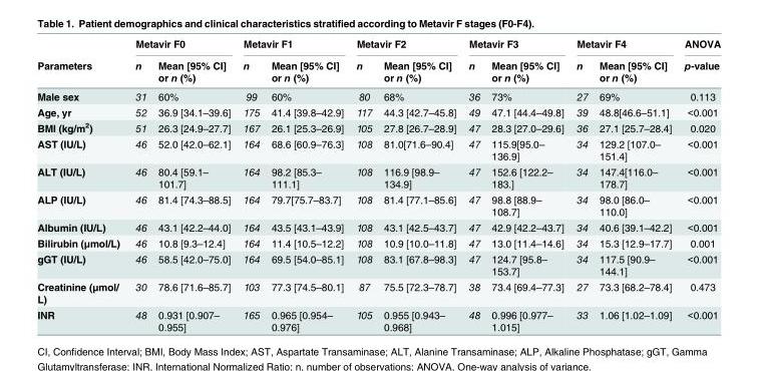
<table><thead><tr><td rowspan="2">Parameters</td><td colspan="2">Metavir F0</td><td colspan="2">Metavir F1</td><td colspan="2">Metavir F2</td><td colspan="2">Metavir F3</td><td colspan="2">Metavir F4</td><td rowspan="2">ANOVA p-value</td></tr><tr><td>n</td><td>Mean [95% CI] or n (%)</td><td>n</td><td>Mean [95% CI] or n (%)</td><td>n</td><td>Mean [95% CI] or n (%)</td><td>n</td><td>Mean [95% CI] or n (%)</td><td>n</td><td>Mean [95% CI] or n (%)</td></tr></thead><tbody><tr><td>Male sex</td><td>31</td><td>60%</td><td>99</td><td>60%</td><td>80</td><td>68%</td><td>36</td><td>73%</td><td>27</td><td>69%</td><td>0.113</td></tr><tr><td>Age, yr</td><td>52</td><td>36.9 [34.1–39.6]</td><td>175</td><td>41.4 [39.8–42.9]</td><td>117</td><td>44.3 [42.7–45.8]</td><td>49</td><td>47.1 [44.4–49.8]</td><td>39</td><td>48.8[46.6–51.1]</td><td>&lt;0.001</td></tr><tr><td>BMI (kg/m<sup>2</sup>)</td><td>51</td><td>26.3 [24.9–27.7]</td><td>167</td><td>26.1 [25.3–26.9]</td><td>105</td><td>27.8 [26.7–28.9]</td><td>47</td><td>28.3 [27.0–29.6]</td><td>36</td><td>27.1 [25.7–28.4]</td><td>0.020</td></tr><tr><td>AST (IU/L)</td><td>46</td><td>52.0 [42.0–62.1]</td><td>164</td><td>68.6 [60.9–76.3]</td><td>108</td><td>81.0[71.6–90.4]</td><td>47</td><td>115.9[95.0– 136.9]</td><td>34</td><td>129.2 [107.0– 151.4]</td><td>&lt;0.001</td></tr><tr><td>ALT (IU/L)</td><td>46</td><td>80.4 [59.1– 101.7]</td><td>164</td><td>98.2 [85.3– 111.1]</td><td>108</td><td>116.9 [98.9– 134.9]</td><td>47</td><td>152.6 [122.2– 183.]</td><td>34</td><td>147.4[116.0– 178.7]</td><td>&lt;0.001</td></tr><tr><td>ALP (IU/L)</td><td>46</td><td>81.4 [74.3–88.5]</td><td>164</td><td>79.7[75.7–83.7]</td><td>108</td><td>81.4 [77.1–85.6]</td><td>47</td><td>98.8 [88.9– 108.7]</td><td>34</td><td>98.0 [86.0– 110.0]</td><td>&lt;0.001</td></tr><tr><td>Albumin (IU/L)</td><td>46</td><td>43.1 [42.2–44.0]</td><td>164</td><td>43.5 [43.1–43.9]</td><td>108</td><td>43.1 [42.5–43.7]</td><td>47</td><td>42.9 [42.2–43.7]</td><td>34</td><td>40.6 [39.1–42.2]</td><td>&lt;0.001</td></tr><tr><td>Bilirubin (μmol/L)</td><td>46</td><td>10.8 [9.3–12.4]</td><td>164</td><td>11.4 [10.5–12.2]</td><td>108</td><td>10.9 [10.0–11.8]</td><td>47</td><td>13.0 [11.4–14.6]</td><td>34</td><td>15.3 [12.9–17.7]</td><td>0.001</td></tr><tr><td>gGT (IU/L)</td><td>46</td><td>58.5 [42.0–75.0]</td><td>164</td><td>69.5 [54.0–85.1]</td><td>108</td><td>83.1 [67.8–98.3]</td><td>47</td><td>124.7 [95.8– 153.7]</td><td>34</td><td>117.5 [90.9– 144.1]</td><td>&lt;0.001</td></tr><tr><td>Creatinine (μmol/ L)</td><td>30</td><td>78.6 [71.6–85.7]</td><td>103</td><td>77.3 [74.5–80.1]</td><td>87</td><td>75.5 [72.3–78.7]</td><td>38</td><td>73.4 [69.4–77.3]</td><td>27</td><td>73.3 [68.2–78.4]</td><td>0.473</td></tr><tr><td>INR</td><td>48</td><td>0.931 [0.907– 0.955]</td><td>165</td><td>0.965 [0.954– 0.976]</td><td>105</td><td>0.955 [0.943– 0.968]</td><td>48</td><td>0.996 [0.977– 1.015]</td><td>33</td><td>1.06 [1.02–1.09]</td><td>&lt;0.001</td></tr></tbody></table>